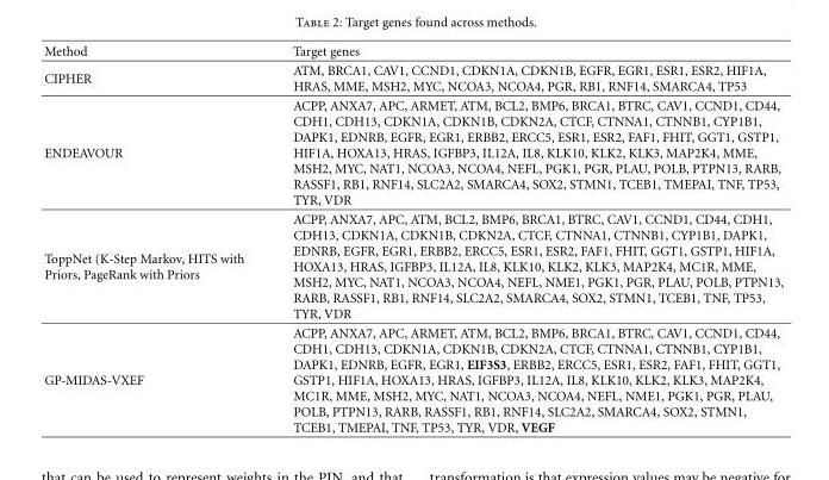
<table><thead><tr><td>Method</td><td>Target genes</td></tr></thead><tbody><tr><td>CIPHER</td><td>ATM, BRCA1, CAV1, CCND1, CDKN1A, CDKN1B, EGFR, EGR1, ESR1, ESR2, HIF1A, HRAS, MME, MSH2, MYC, NCOA3, NCOA4, PGR, RB1, RNF14, SMARCA4, TP53</td></tr><tr><td>ENDEAVOUR</td><td>ACPP, ANXA7, APC, ARMET, ATM, BCL2, BMP6, BRCA1, BTRC, CAV1, CCND1, CD44, CDH1, CDH13, CDKN1A, CDKN1B, CDKN2A, CTCF, CTNNA1, CTNNB1, CYP1B1, DAPK1, EDNRB, EGFR, EGR1, ERBB2, ERCC5, ESR1, ESR2, FAF1, FHIT, GGT1, GSTP1, HIF1A, HOXA13, HRAS, IGFBP3, IL12A, IL8, KLK10, KLK2, KLK3, MAP2K4, MME, MSH2, MYC, NAT1, NCOA3, NCOA4, NEFL, PGK1, PGR, PLAU, POLB, PTPN13, RARB, RASSF1, RB1, RNF14, SLC2A2, SMARCA4, SOX2, STMN1, TCEB1, TMEPAI, TNF, TP53, TYR, VDR</td></tr><tr><td>ToppNet (K-Step Markov, HITS with Priors, PageRank with Priors</td><td>ACPP, ANXA7, APC, ATM, BCL2, BMP6, BRCA1, BTRC, CAV1, CCND1, CD44, CDH1, CDH13, CDKN1A, CDKN1B, CDKN2A, CTCF, CTNNA1, CTNNB1, CYP1B1, DAPK1, EDNRB, EGFR, EGR1, ERBB2, ERCC5, ESR1, ESR2, FAF1, FHIT, GGT1, GSTP1, HIF1A, HOXA13, HRAS, IGFBP3, IL12A, IL8, KLK10, KLK2, KLK3, MAP2K4, MC1R, MME, MSH2, MYC, NAT1, NCOA3, NCOA4, NEFL, NME1, PGK1, PGR, PLAU, POLB, PTPN13, RARB, RASSF1, RB1, RNF14, SLC2A2, SMARCA4, SOX2, STMN1, TCEB1, TNF, TP53, TYR, VDR</td></tr><tr><td>GP-MIDAS-VXEF</td><td>ACPP, ANXA7, APC, ARMET, ATM, BCL2, BMP6, BRCA1, BTRC, CAV1, CCND1, CD44, CDH1, CDH13, CDKN1A, CDKN1B, CDKN2A, CTCF, CTNNA1, CTNNB1, CYP1B1, DAPK1, EDNRB, EGFR, EGR1, EIF3S3, ERBB2, ERCC5, ESR1, ESR2, FAF1, FHIT, GGT1, GSTP1, HIF1A, HOXA13, HRAS, IGFBP3, IL12A, IL8, KLK10, KLK2, KLK3, MAP2K4, MC1R, MME, MSH2, MYC, NAT1, NCOA3, NCOA4, NEFL, NME1, PGK1, PGR, PLAU, POLB, PTPN13, RARB, RASSF1, RB1, RNF14, SLC2A2, SMARCA4, SOX2, STMN1, TCEB1, TMEPAI, TNF, TP53, TYR, VDR, VEGF</td></tr></tbody></table>